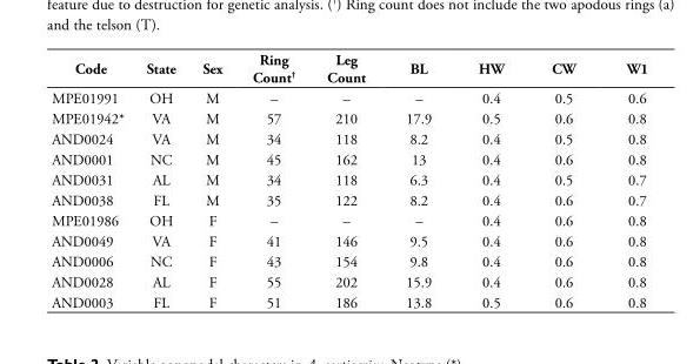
<table><thead><tr><td>Code</td><td>State</td><td>Sex</td><td>Ring Count<sup>†</sup></td><td>Leg Count</td><td>BL</td><td>HW</td><td>CW</td><td>W1</td></tr></thead><tbody><tr><td>MPE01991</td><td>OH</td><td>M</td><td>–</td><td>–</td><td>–</td><td>0.4</td><td>0.5</td><td>0.6</td></tr><tr><td>MPE01942*</td><td>VA</td><td>M</td><td>57</td><td>210</td><td>17.9</td><td>0.5</td><td>0.6</td><td>0.8</td></tr><tr><td>AND0024</td><td>VA</td><td>M</td><td>34</td><td>118</td><td>8.2</td><td>0.4</td><td>0.5</td><td>0.8</td></tr><tr><td>AND0001</td><td>NC</td><td>M</td><td>45</td><td>162</td><td>13</td><td>0.4</td><td>0.6</td><td>0.8</td></tr><tr><td>AND0031</td><td>AL</td><td>M</td><td>34</td><td>118</td><td>6.3</td><td>0.4</td><td>0.5</td><td>0.7</td></tr><tr><td>AND0038</td><td>FL</td><td>M</td><td>35</td><td>122</td><td>8.2</td><td>0.4</td><td>0.6</td><td>0.7</td></tr><tr><td>MPE01986</td><td>OH</td><td>F</td><td>–</td><td>–</td><td>–</td><td>0.4</td><td>0.6</td><td>0.8</td></tr><tr><td>AND0049</td><td>VA</td><td>F</td><td>41</td><td>146</td><td>9.5</td><td>0.4</td><td>0.6</td><td>0.8</td></tr><tr><td>AND0006</td><td>NC</td><td>F</td><td>43</td><td>154</td><td>9.8</td><td>0.4</td><td>0.6</td><td>0.8</td></tr><tr><td>AND0028</td><td>AL</td><td>F</td><td>55</td><td>202</td><td>15.9</td><td>0.4</td><td>0.6</td><td>0.8</td></tr><tr><td>AND0003</td><td>FL</td><td>F</td><td>51</td><td>186</td><td>13.8</td><td>0.5</td><td>0.6</td><td>0.8</td></tr></tbody></table>